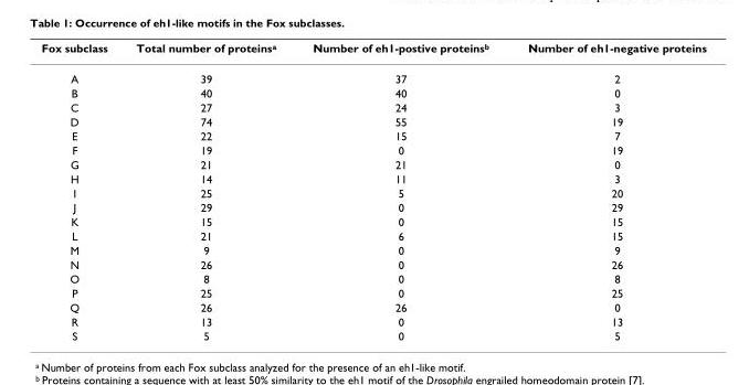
<table><thead><tr><td>Fox subclass</td><td>Total number of proteins<sup>a</sup></td><td>Number of eh1-postive proteins<sup>b</sup></td><td>Number of eh1-negative proteins</td></tr></thead><tbody><tr><td>A</td><td>39</td><td>37</td><td>2</td></tr><tr><td>B</td><td>40</td><td>40</td><td>0</td></tr><tr><td>C</td><td>27</td><td>24</td><td>3</td></tr><tr><td>D</td><td>74</td><td>55</td><td>19</td></tr><tr><td>E</td><td>22</td><td>15</td><td>7</td></tr><tr><td>F</td><td>19</td><td>0</td><td>19</td></tr><tr><td>G</td><td>21</td><td>21</td><td>0</td></tr><tr><td>H</td><td>14</td><td>11</td><td>3</td></tr><tr><td>I</td><td>25</td><td>5</td><td>20</td></tr><tr><td>J</td><td>29</td><td>0</td><td>29</td></tr><tr><td>K</td><td>15</td><td>0</td><td>15</td></tr><tr><td>L</td><td>21</td><td>6</td><td>15</td></tr><tr><td>M</td><td>9</td><td>0</td><td>9</td></tr><tr><td>N</td><td>26</td><td>0</td><td>26</td></tr><tr><td>O</td><td>8</td><td>0</td><td>8</td></tr><tr><td>P</td><td>25</td><td>0</td><td>25</td></tr><tr><td>Q</td><td>26</td><td>26</td><td>0</td></tr><tr><td>R</td><td>13</td><td>0</td><td>13</td></tr><tr><td>S</td><td>5</td><td>0</td><td>5</td></tr></tbody></table>